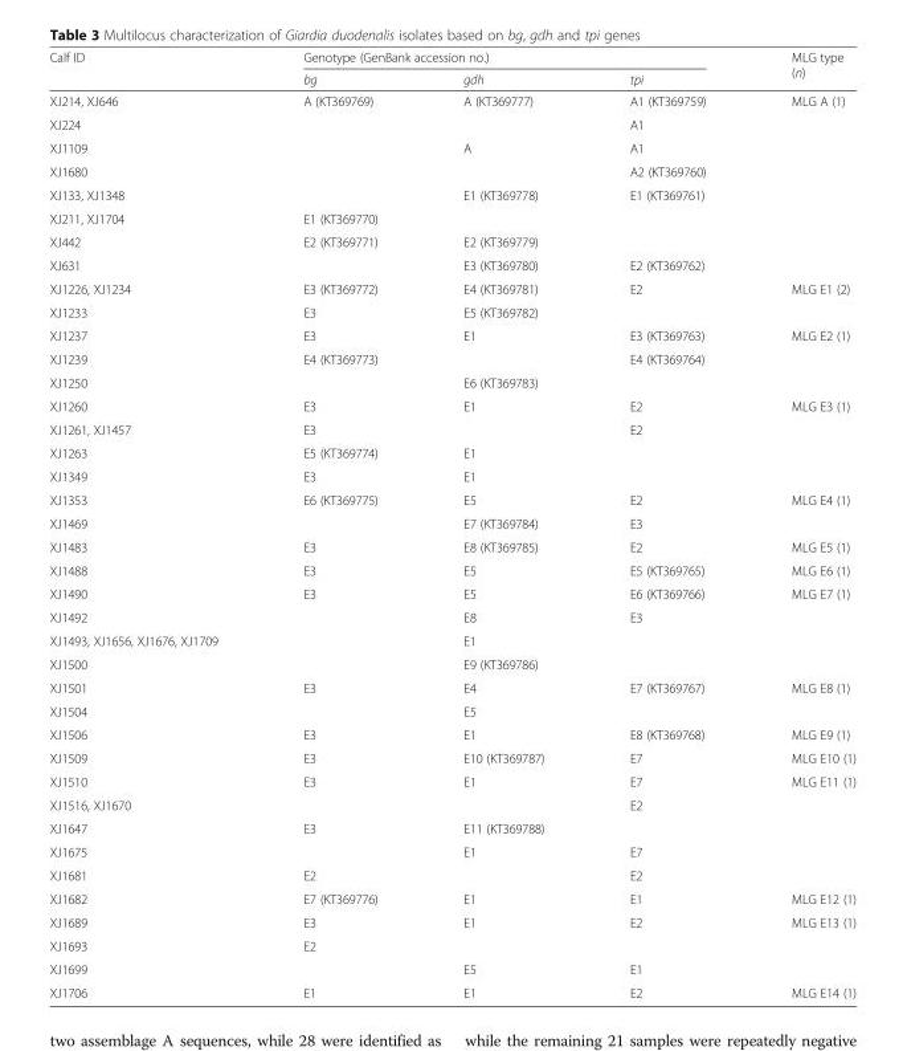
<table><thead><tr><td rowspan="2">Calf ID</td><td colspan="3">Genotype (GenBank accession no.)</td><td rowspan="2">MLG type (n)</td></tr><tr><td>bg</td><td>gdh</td><td>tpi</td></tr></thead><tbody><tr><td>XJ214, XJ646</td><td>A (KT369769)</td><td>A (KT369777)</td><td>A1 (KT369759)</td><td>MLG A (1)</td></tr><tr><td>XJ224</td><td></td><td></td><td>A1</td><td></td></tr><tr><td>XJ1109</td><td></td><td>A</td><td>A1</td><td></td></tr><tr><td>XJ1680</td><td></td><td></td><td>A2 (KT369760)</td><td></td></tr><tr><td>XJ133, XJ1348</td><td></td><td>E1 (KT369778)</td><td>E1 (KT369761)</td><td></td></tr><tr><td>XJ211, XJ1704</td><td>E1 (KT369770)</td><td></td><td></td><td></td></tr><tr><td>XJ442</td><td>E2 (KT369771)</td><td>E2 (KT369779)</td><td></td><td></td></tr><tr><td>XJ631</td><td></td><td>E3 (KT369780)</td><td>E2 (KT369762)</td><td></td></tr><tr><td>XJ1226, XJ1234</td><td>E3 (KT369772)</td><td>E4 (KT369781)</td><td>E2</td><td>MLG E1 (2)</td></tr><tr><td>XJ1233</td><td>E3</td><td>E5 (KT369782)</td><td></td><td></td></tr><tr><td>XJ1237</td><td>E3</td><td>E1</td><td>E3 (KT369763)</td><td>MLG E2 (1)</td></tr><tr><td>XJ1239</td><td>E4 (KT369773)</td><td></td><td>E4 (KT369764)</td><td></td></tr><tr><td>XJ1250</td><td></td><td>E6 (KT369783)</td><td></td><td></td></tr><tr><td>XJ1260</td><td>E3</td><td>E1</td><td>E2</td><td>MLG E3 (1)</td></tr><tr><td>XJ1261, XJ1457</td><td>E3</td><td></td><td>E2</td><td></td></tr><tr><td>XJ1263</td><td>E5 (KT369774)</td><td>E1</td><td></td><td></td></tr><tr><td>XJ1349</td><td>E3</td><td>E1</td><td></td><td></td></tr><tr><td>XJ1353</td><td>E6 (KT369775)</td><td>E5</td><td>E2</td><td>MLG E4 (1)</td></tr><tr><td>XJ1469</td><td></td><td>E7 (KT369784)</td><td>E3</td><td></td></tr><tr><td>XJ1483</td><td>E3</td><td>E8 (KT369785)</td><td>E2</td><td>MLG E5 (1)</td></tr><tr><td>XJ1488</td><td>E3</td><td>E5</td><td>E5 (KT369765)</td><td>MLG E6 (1)</td></tr><tr><td>XJ1490</td><td>E3</td><td>E5</td><td>E6 (KT369766)</td><td>MLG E7 (1)</td></tr><tr><td>XJ1492</td><td></td><td>E8</td><td>E3</td><td></td></tr><tr><td>XJ1493, XJ1656, XJ1676, XJ1709</td><td></td><td>E1</td><td></td><td></td></tr><tr><td>XJ1500</td><td></td><td>E9 (KT369786)</td><td></td><td></td></tr><tr><td>XJ1501</td><td>E3</td><td>E4</td><td>E7 (KT369767)</td><td>MLG E8 (1)</td></tr><tr><td>XJ1504</td><td></td><td>E5</td><td></td><td></td></tr><tr><td>XJ1506</td><td>E3</td><td>E1</td><td>E8 (KT369768)</td><td>MLG E9 (1)</td></tr><tr><td>XJ1509</td><td>E3</td><td>E10 (KT369787)</td><td>E7</td><td>MLG E10 (1)</td></tr><tr><td>XJ1510</td><td>E3</td><td>E1</td><td>E7</td><td>MLG E11 (1)</td></tr><tr><td>XJ1516, XJ1670</td><td></td><td></td><td>E2</td><td></td></tr><tr><td>XJ1647</td><td>E3</td><td>E11 (KT369788)</td><td></td><td></td></tr><tr><td>XJ1675</td><td></td><td>E1</td><td>E7</td><td></td></tr><tr><td>XJ1681</td><td>E2</td><td></td><td>E2</td><td></td></tr><tr><td>XJ1682</td><td>E7 (KT369776)</td><td>E1</td><td>E1</td><td>MLG E12 (1)</td></tr><tr><td>XJ1689</td><td>E3</td><td>E1</td><td>E2</td><td>MLG E13 (1)</td></tr><tr><td>XJ1693</td><td>E2</td><td></td><td></td><td></td></tr><tr><td>XJ1699</td><td></td><td>E5</td><td>E1</td><td></td></tr><tr><td>XJ1706</td><td>E1</td><td>E1</td><td>E2</td><td>MLG E14 (1)</td></tr></tbody></table>